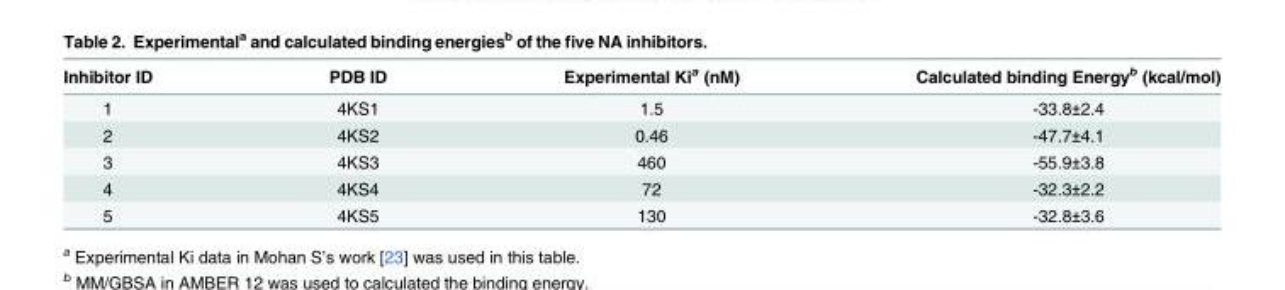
<table><thead><tr><td>Inhibitor ID</td><td>PDB ID</td><td>Experimental Ki<sup>a</sup> (nM)</td><td>Calculated binding Energy<sup>b</sup> (kcal/mol)</td></tr></thead><tbody><tr><td>1</td><td>4KS1</td><td>1.5</td><td>-33.8±2.4</td></tr><tr><td>2</td><td>4KS2</td><td>0.46</td><td>-47.7±4.1</td></tr><tr><td>3</td><td>4KS3</td><td>460</td><td>-55.9±3.8</td></tr><tr><td>4</td><td>4KS4</td><td>72</td><td>-32.3±2.2</td></tr><tr><td>5</td><td>4KS5</td><td>130</td><td>-32.8±3.6</td></tr></tbody></table>